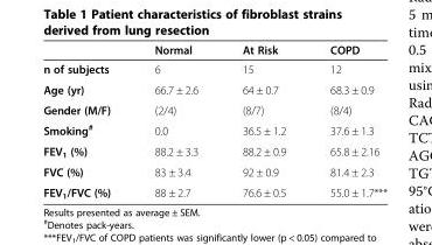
<table><thead><tr><td></td><td>Normal</td><td>At Risk</td><td>COPD</td></tr></thead><tbody><tr><td>n of subjects</td><td>6</td><td>15</td><td>12</td></tr><tr><td>Age (yr)</td><td>66.7 ± 2.6</td><td>64 ± 0.7</td><td>68.3 ± 0.9</td></tr><tr><td>Gender (M/F)</td><td>(2/4)</td><td>(8/7)</td><td>(8/4)</td></tr><tr><td>Smoking<sup>#</sup></td><td>0.0</td><td>36.5 ± 1.2</td><td>37.6 ± 1.3</td></tr><tr><td>FEV<sub>1</sub> (%)</td><td>88.2 ± 3.3</td><td>88.2 ± 0.9</td><td>65.8 ± 2.16</td></tr><tr><td>FVC (%)</td><td>83 ± 3.4</td><td>92 ± 0.9</td><td>81.4 ± 2.3</td></tr><tr><td>FEV<sub>1</sub>/FVC (%)</td><td>88 ± 2.7</td><td>76.6 ± 0.5</td><td>55.0 ± 1.7***</td></tr></tbody></table>